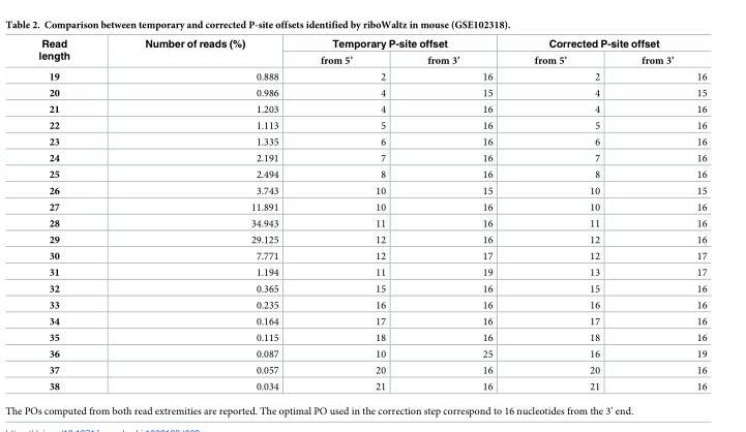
<table><thead><tr><td rowspan="2">Read length</td><td rowspan="2">Number of reads (%)</td><td colspan="2">Temporary P-site offset</td><td colspan="2">Corrected P-site offset</td></tr><tr><td>from 5’</td><td>from 3’</td><td>from 5’</td><td>from 3’</td></tr></thead><tbody><tr><td>19</td><td>0.888</td><td>2</td><td>16</td><td>2</td><td>16</td></tr><tr><td>20</td><td>0.986</td><td>4</td><td>15</td><td>4</td><td>15</td></tr><tr><td>21</td><td>1.203</td><td>4</td><td>16</td><td>4</td><td>16</td></tr><tr><td>22</td><td>1.113</td><td>5</td><td>16</td><td>5</td><td>16</td></tr><tr><td>23</td><td>1.335</td><td>6</td><td>16</td><td>6</td><td>16</td></tr><tr><td>24</td><td>2.191</td><td>7</td><td>16</td><td>7</td><td>16</td></tr><tr><td>25</td><td>2.494</td><td>8</td><td>16</td><td>8</td><td>16</td></tr><tr><td>26</td><td>3.743</td><td>10</td><td>15</td><td>10</td><td>15</td></tr><tr><td>27</td><td>11.891</td><td>10</td><td>16</td><td>10</td><td>16</td></tr><tr><td>28</td><td>34.943</td><td>11</td><td>16</td><td>11</td><td>16</td></tr><tr><td>29</td><td>29.125</td><td>12</td><td>16</td><td>12</td><td>16</td></tr><tr><td>30</td><td>7.771</td><td>12</td><td>17</td><td>12</td><td>17</td></tr><tr><td>31</td><td>1.194</td><td>11</td><td>19</td><td>13</td><td>17</td></tr><tr><td>32</td><td>0.365</td><td>15</td><td>16</td><td>15</td><td>16</td></tr><tr><td>33</td><td>0.235</td><td>16</td><td>16</td><td>16</td><td>16</td></tr><tr><td>34</td><td>0.164</td><td>17</td><td>16</td><td>17</td><td>16</td></tr><tr><td>35</td><td>0.115</td><td>18</td><td>16</td><td>18</td><td>16</td></tr><tr><td>36</td><td>0.087</td><td>10</td><td>25</td><td>16</td><td>19</td></tr><tr><td>37</td><td>0.057</td><td>20</td><td>16</td><td>20</td><td>16</td></tr><tr><td>38</td><td>0.034</td><td>21</td><td>16</td><td>21</td><td>16</td></tr></tbody></table>